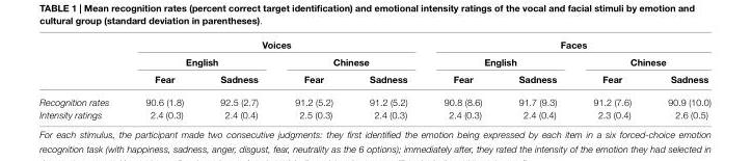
<table><thead><tr><td rowspan="3"></td><td colspan="4">Voices</td><td colspan="4">Faces</td></tr><tr><td colspan="2">English</td><td colspan="2">Chinese</td><td colspan="2">English</td><td colspan="2">Chinese</td></tr><tr><td>Fear</td><td>Sadness</td><td>Fear</td><td>Sadness</td><td>Fear</td><td>Sadness</td><td>Fear</td><td>Sadness</td></tr></thead><tbody><tr><td>Recognition rates</td><td>90.6 (1.8)</td><td>92.5 (2.7)</td><td>91.2 (5.2)</td><td>91.2 (5.2)</td><td>90.8 (8.6)</td><td>91.7 (9.3)</td><td>91.2 (7.6)</td><td>90.9 (10.0)</td></tr><tr><td>Intensity ratings</td><td>2.4 (0.3)</td><td>2.4 (0.4)</td><td>2.5 (0.3)</td><td>2.4 (0.3)</td><td>2.4 (0.3)</td><td>2.4 (0.4)</td><td>2.3 (0.4)</td><td>2.6 (0.5)</td></tr></tbody></table>